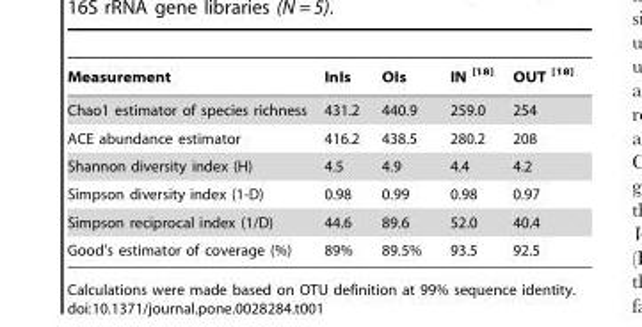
<table><thead><tr><td>Measurement</td><td>InIs</td><td>OIs</td><td>IN <sup>[18]</sup></td><td>OUT <sup>[18]</sup></td></tr></thead><tbody><tr><td>Chao1 estimator of species richness</td><td>431.2</td><td>440.9</td><td>259.0</td><td>254</td></tr><tr><td>ACE abundance estimator</td><td>416.2</td><td>438.5</td><td>280.2</td><td>208</td></tr><tr><td>Shannon diversity index (H)</td><td>4.5</td><td>4.9</td><td>4.4</td><td>4.2</td></tr><tr><td>Simpson diversity index (1-D)</td><td>0.98</td><td>0.99</td><td>0.98</td><td>0.97</td></tr><tr><td>Simpson reciprocal index (1/D)</td><td>44.6</td><td>89.6</td><td>52.0</td><td>40.4</td></tr><tr><td>Good’s estimator of coverage (%)</td><td>89%</td><td>89.5%</td><td>93.5</td><td>92.5</td></tr></tbody></table>